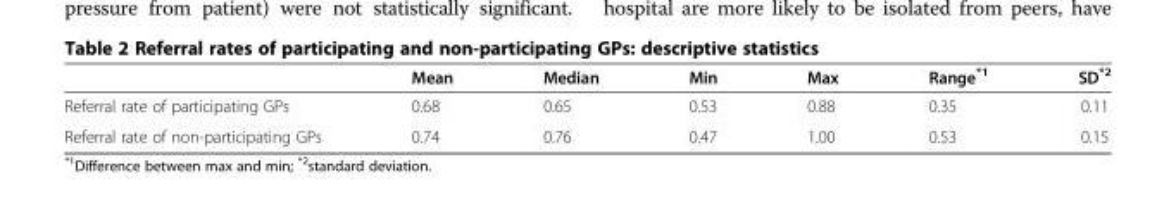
<table><thead><tr><td></td><td>Mean</td><td>Median</td><td>Min</td><td>Max</td><td>Range<sup>*1</sup></td><td>SD<sup>*2</sup></td></tr></thead><tbody><tr><td>Referral rate of participating GPs</td><td>0.68</td><td>0.65</td><td>0.53</td><td>0.88</td><td>0.35</td><td>0.11</td></tr><tr><td>Referral rate of non-participating GPs</td><td>0.74</td><td>0.76</td><td>0.47</td><td>1.00</td><td>0.53</td><td>0.15</td></tr></tbody></table>